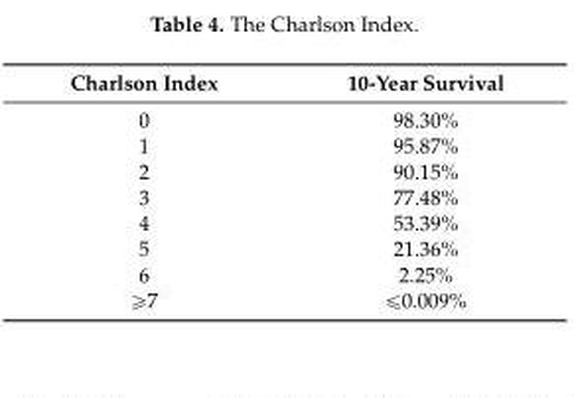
<table><thead><tr><td>Charlson Index</td><td>10-Year Survival</td></tr></thead><tbody><tr><td>0</td><td>98.30%</td></tr><tr><td>1</td><td>95.87%</td></tr><tr><td>2</td><td>90.15%</td></tr><tr><td>3</td><td>77.48%</td></tr><tr><td>4</td><td>53.39%</td></tr><tr><td>5</td><td>21.36%</td></tr><tr><td>6</td><td>2.25%</td></tr><tr><td>ě7</td><td>ď0.009%</td></tr></tbody></table>